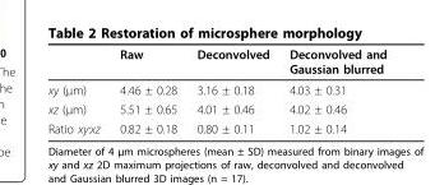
<table><thead><tr><td></td><td>Raw</td><td>Deconvolved</td><td>Deconvolved and Gaussian blurred</td></tr></thead><tbody><tr><td>xy (μm)</td><td>4.46 ± 0.28</td><td>3.16 ± 0.18</td><td>4.03 ± 0.31</td></tr><tr><td>xz (μm)</td><td>5.51 ± 0.65</td><td>4.01 ± 0.46</td><td>4.02 ± 0.46</td></tr><tr><td>Ratio xy:xz</td><td>0.82 ± 0.18</td><td>0.80 ± 0.11</td><td>1.02 ± 0.14</td></tr></tbody></table>